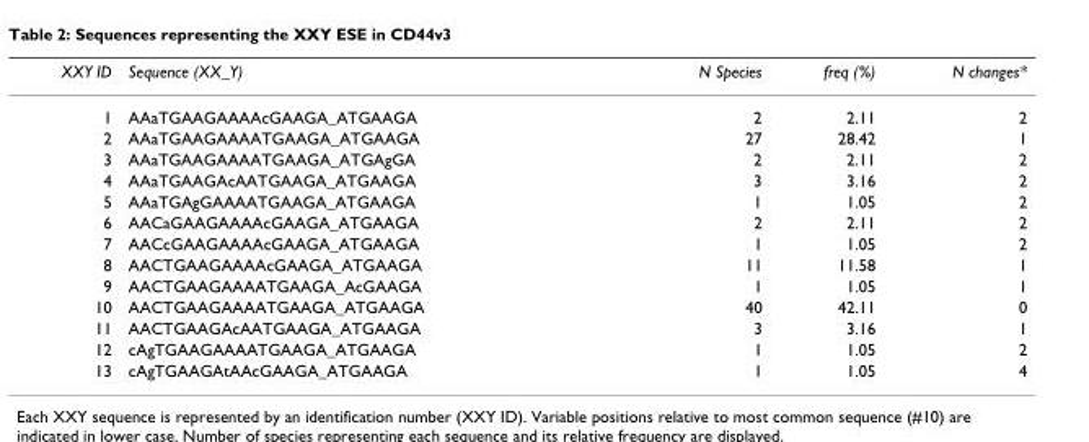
<table><thead><tr><td>XXY ID</td><td>Sequence (XX_Y)</td><td>N Species</td><td>freq (%)</td><td>N changes*</td></tr></thead><tbody><tr><td>1</td><td>AAaTGAAGAAAAcGAAGA_ATGAAGA</td><td>2</td><td>2.11</td><td>2</td></tr><tr><td>2</td><td>AAaTGAAGAAAATGAAGA_ATGAAGA</td><td>27</td><td>28.42</td><td>1</td></tr><tr><td>3</td><td>AAaTGAAGAAAATGAAGA_ATGAgGA</td><td>2</td><td>2.11</td><td>2</td></tr><tr><td>4</td><td>AAaTGAAGAcAATGAAGA_ATGAAGA</td><td>3</td><td>3.16</td><td>2</td></tr><tr><td>5</td><td>AAaTGAgGAAAATGAAGA_ATGAAGA</td><td>1</td><td>1.05</td><td>2</td></tr><tr><td>6</td><td>AACaGAAGAAAAcGAAGA_ATGAAGA</td><td>2</td><td>2.11</td><td>2</td></tr><tr><td>7</td><td>AACcGAAGAAAAcGAAGA_ATGAAGA</td><td>1</td><td>1.05</td><td>2</td></tr><tr><td>8</td><td>AACTGAAGAAAAcGAAGA_ATGAAGA</td><td>11</td><td>11.58</td><td>1</td></tr><tr><td>9</td><td>AACTGAAGAAAATGAAGA_AcGAAGA</td><td>1</td><td>1.05</td><td>1</td></tr><tr><td>10</td><td>AACTGAAGAAAATGAAGA_ATGAAGA</td><td>40</td><td>42.11</td><td>0</td></tr><tr><td>11</td><td>AACTGAAGAcAATGAAGA_ATGAAGA</td><td>3</td><td>3.16</td><td>1</td></tr><tr><td>12</td><td>cAgTGAAGAAAATGAAGA_ATGAAGA</td><td>1</td><td>1.05</td><td>2</td></tr><tr><td>13</td><td>cAgTGAAGAtAAcGAAGA_ATGAAGA</td><td>1</td><td>1.05</td><td>4</td></tr></tbody></table>